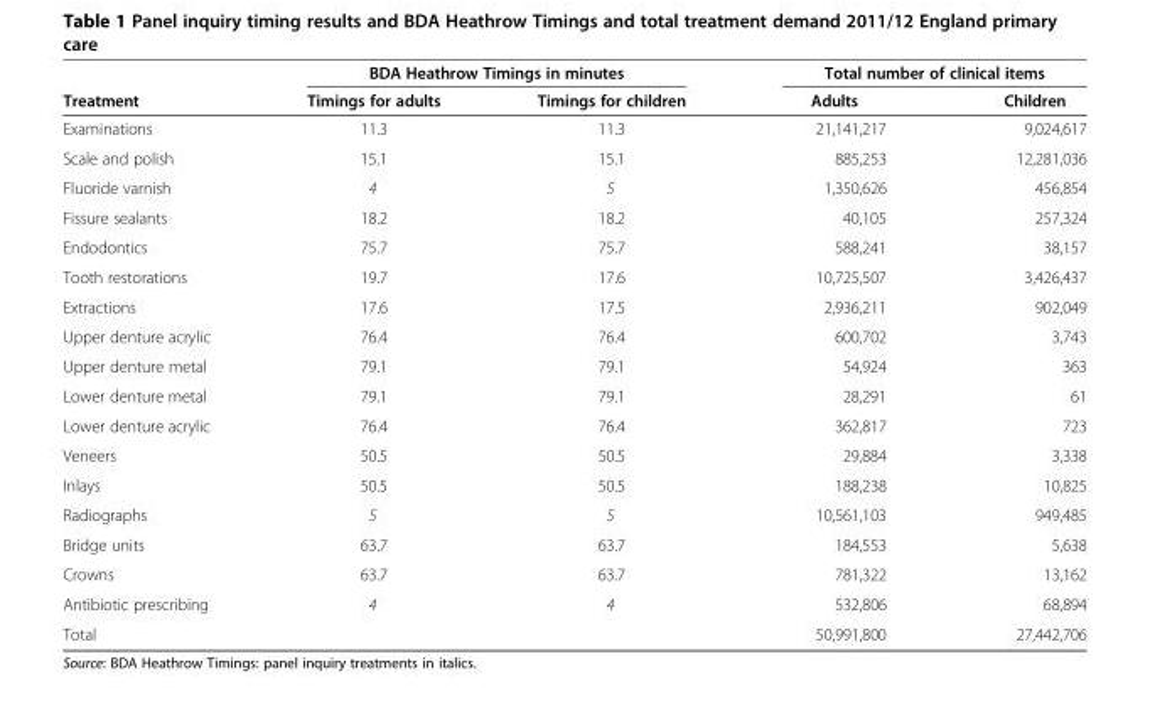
<table><thead><tr><td rowspan="2">Treatment</td><td colspan="2">BDA Heathrow Timings in minutes</td><td colspan="2">Total number of clinical items</td></tr><tr><td>Timings for adults</td><td>Timings for children</td><td>Adults</td><td>Children</td></tr></thead><tbody><tr><td>Examinations</td><td>11.3</td><td>11.3</td><td>21,141,217</td><td>9,024,617</td></tr><tr><td>Scale and polish</td><td>15.1</td><td>15.1</td><td>885,253</td><td>12,281,036</td></tr><tr><td>Fluoride varnish</td><td>4</td><td>5</td><td>1,350,626</td><td>456,854</td></tr><tr><td>Fissure sealants</td><td>18.2</td><td>18.2</td><td>40,105</td><td>257,324</td></tr><tr><td>Endodontics</td><td>75.7</td><td>75.7</td><td>588,241</td><td>38,157</td></tr><tr><td>Tooth restorations</td><td>19.7</td><td>17.6</td><td>10,725,507</td><td>3,426,437</td></tr><tr><td>Extractions</td><td>17.6</td><td>17.5</td><td>2,936,211</td><td>902,049</td></tr><tr><td>Upper denture acrylic</td><td>76.4</td><td>76.4</td><td>600,702</td><td>3,743</td></tr><tr><td>Upper denture metal</td><td>79.1</td><td>79.1</td><td>54,924</td><td>363</td></tr><tr><td>Lower denture metal</td><td>79.1</td><td>79.1</td><td>28,291</td><td>61</td></tr><tr><td>Lower denture acrylic</td><td>76.4</td><td>76.4</td><td>362,817</td><td>723</td></tr><tr><td>Veneers</td><td>50.5</td><td>50.5</td><td>29,884</td><td>3,338</td></tr><tr><td>Inlays</td><td>50.5</td><td>50.5</td><td>188,238</td><td>10,825</td></tr><tr><td>Radiographs</td><td>5</td><td>5</td><td>10,561,103</td><td>949,485</td></tr><tr><td>Bridge units</td><td>63.7</td><td>63.7</td><td>184,553</td><td>5,638</td></tr><tr><td>Crowns</td><td>63.7</td><td>63.7</td><td>781,322</td><td>13,162</td></tr><tr><td>Antibiotic prescribing</td><td>4</td><td>4</td><td>532,806</td><td>68,894</td></tr><tr><td>Total</td><td></td><td></td><td>50,991,800</td><td>27,442,706</td></tr></tbody></table>